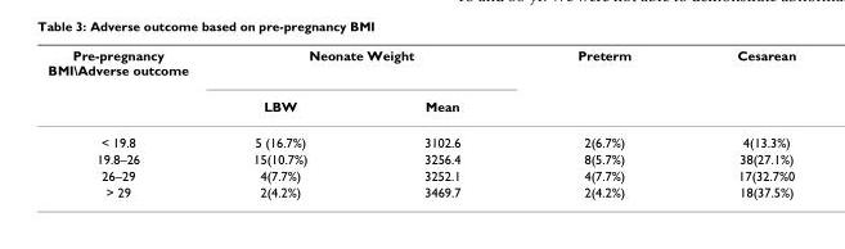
<table><thead><tr><td rowspan="2">Pre-pregnancy BMI\Adverse outcome</td><td colspan="2">Neonate Weight</td><td rowspan="2">Preterm</td><td rowspan="2">Cesarean</td></tr><tr><td>LBW</td><td>Mean</td></tr></thead><tbody><tr><td>&lt; 19.8</td><td>5 (16.7%)</td><td>3102.6</td><td>2(6.7%)</td><td>4(13.3%)</td></tr><tr><td>19.8–26</td><td>15(10.7%)</td><td>3256.4</td><td>8(5.7%)</td><td>38(27.1%)</td></tr><tr><td>26–29</td><td>4(7.7%)</td><td>3252.1</td><td>4(7.7%)</td><td>17(32.7%0</td></tr><tr><td>&gt; 29</td><td>2(4.2%)</td><td>3469.7</td><td>2(4.2%)</td><td>18(37.5%)</td></tr></tbody></table>